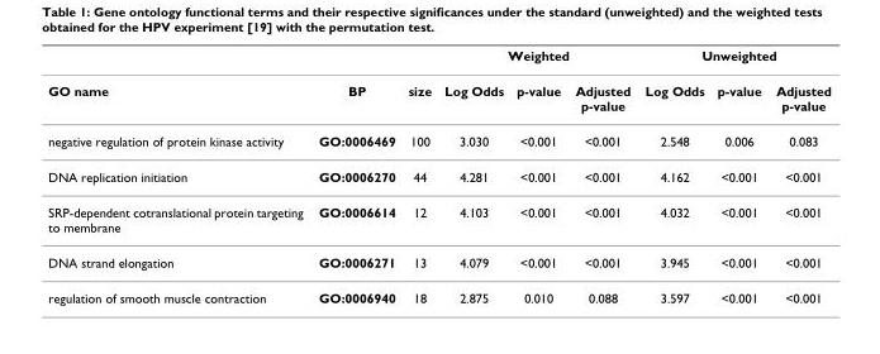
<table><thead><tr><td rowspan="2">GO name</td><td rowspan="2">BP</td><td rowspan="2">size</td><td colspan="3">Weighted</td><td colspan="3">Unweighted</td></tr><tr><td>Log Odds</td><td>p-value</td><td>Adjusted p-value</td><td>Log Odds</td><td>p-value</td><td>Adjusted p-value</td></tr></thead><tbody><tr><td>negative regulation of protein kinase activity</td><td>GO:0006469</td><td>100</td><td>3.030</td><td>&lt;0.001</td><td>&lt;0.001</td><td>2.548</td><td>0.006</td><td>0.083</td></tr><tr><td>DNA replication initiation</td><td>GO:0006270</td><td>44</td><td>4.281</td><td>&lt;0.001</td><td>&lt;0.001</td><td>4.162</td><td>&lt;0.001</td><td>&lt;0.001</td></tr><tr><td>SRP-dependent cotranslational protein targeting to membrane</td><td>GO:0006614</td><td>12</td><td>4.103</td><td>&lt;0.001</td><td>&lt;0.001</td><td>4.032</td><td>&lt;0.001</td><td>&lt;0.001</td></tr><tr><td>DNA strand elongation</td><td>GO:0006271</td><td>13</td><td>4.079</td><td>&lt;0.001</td><td>&lt;0.001</td><td>3.945</td><td>&lt;0.001</td><td>&lt;0.001</td></tr><tr><td>regulation of smooth muscle contraction</td><td>GO:0006940</td><td>18</td><td>2.875</td><td>0.010</td><td>0.088</td><td>3.597</td><td>&lt;0.001</td><td>&lt;0.001</td></tr></tbody></table>